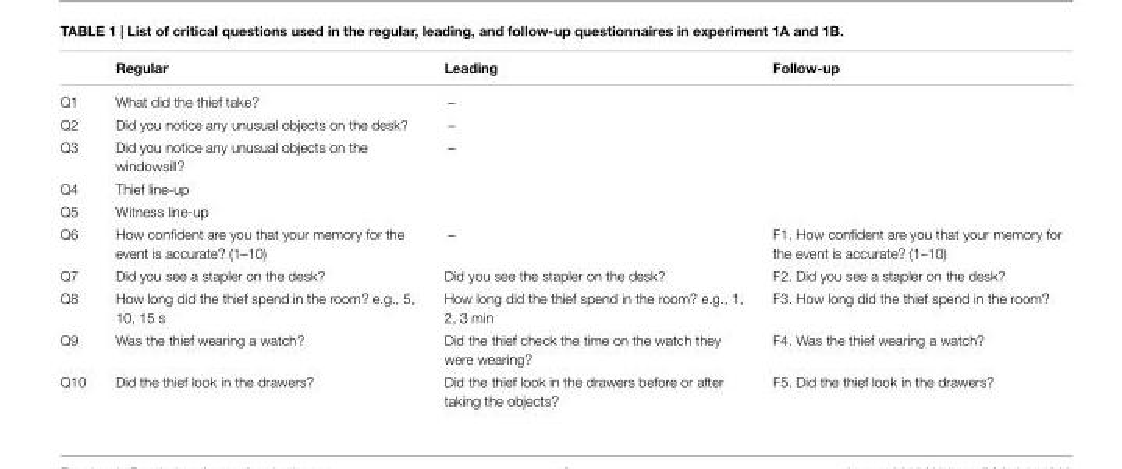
<table><thead><tr><td></td><td>Regular</td><td>Leading</td><td>Follow-up</td></tr></thead><tbody><tr><td>Q1</td><td>What did the thief take?</td><td>–</td><td></td></tr><tr><td>Q2</td><td>Did you notice any unusual objects on the desk?</td><td>–</td><td></td></tr><tr><td>Q3</td><td>Did you notice any unusual objects on the windowsill?</td><td>–</td><td></td></tr><tr><td>Q4</td><td>Thief line-up</td><td></td><td></td></tr><tr><td>Q5</td><td>Witness line-up</td><td></td><td></td></tr><tr><td>Q6</td><td>How confident are you that your memory for the event is accurate? (1–10)</td><td>–</td><td>F1. How confident are you that your memory for the event is accurate? (1–10)</td></tr><tr><td>Q7</td><td>Did you see a stapler on the desk?</td><td>Did you see the stapler on the desk?</td><td>F2. Did you see a stapler on the desk?</td></tr><tr><td>Q8</td><td>How long did the thief spend in the room? e.g., 5, 10, 15 s</td><td>How long did the thief spend in the room? e.g., 1, 2, 3 min</td><td>F3. How long did the thief spend in the room?</td></tr><tr><td>Q9</td><td>Was the thief wearing a watch?</td><td>Did the thief check the time on the watch they were wearing?</td><td>F4. Was the thief wearing a watch?</td></tr><tr><td>Q10</td><td>Did the thief look in the drawers?</td><td>Did the thief look in the drawers before or after taking the objects?</td><td>F5. Did the thief look in the drawers?</td></tr></tbody></table>